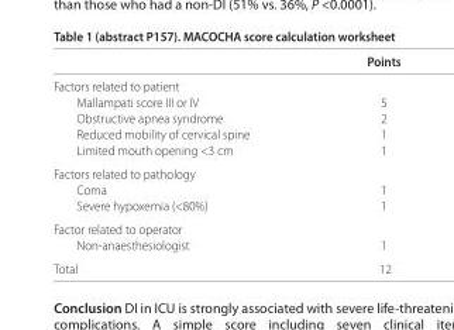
<table><thead><tr><td></td><td>Points</td></tr></thead><tbody><tr><td colspan="2">Factors related to patient</td></tr><tr><td>Mallampati score III or IV</td><td>5</td></tr><tr><td>Obstructive apnea syndrome</td><td>2</td></tr><tr><td>Reduced mobility of cervical spine</td><td>1</td></tr><tr><td>Limited mouth opening &lt;3 cm</td><td>1</td></tr><tr><td colspan="2">Factors related to pathology</td></tr><tr><td>Coma</td><td>1</td></tr><tr><td>Severe hypoxemia (&lt;80%)</td><td>1</td></tr><tr><td colspan="2">Factor related to operator</td></tr><tr><td>Non-anaesthesiologist</td><td>1</td></tr><tr><td>Total</td><td>12</td></tr></tbody></table>